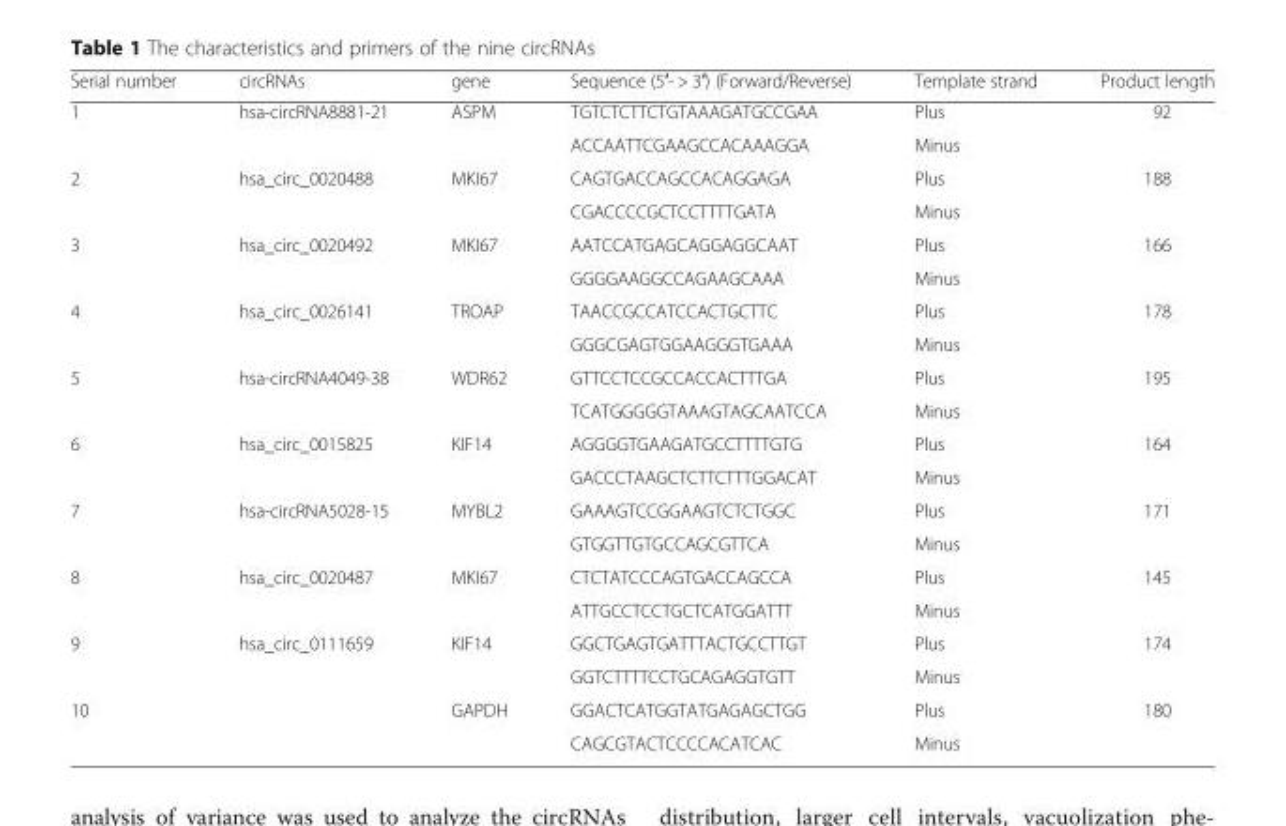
<table><thead><tr><td>Serial number</td><td>circRNAs</td><td>gene</td><td>Sequence (5′- &gt; 3′) (Forward/Reverse)</td><td>Template strand</td><td>Product length</td></tr></thead><tbody><tr><td rowspan="2">1</td><td rowspan="2">hsa-circRNA8881-21</td><td rowspan="2">ASPM</td><td>TGTCTCTTCTGTAAAGATGCCGAA</td><td>Plus</td><td rowspan="2">92</td></tr><tr><td>ACCAATTCGAAGCCACAAAGGA</td><td>Minus</td></tr><tr><td rowspan="2">2</td><td rowspan="2">hsa_circ_0020488</td><td rowspan="2">MKI67</td><td>CAGTGACCAGCCACAGGAGA</td><td>Plus</td><td rowspan="2">188</td></tr><tr><td>CGACCCCGCTCCTTTTGATA</td><td>Minus</td></tr><tr><td rowspan="2">3</td><td rowspan="2">hsa_circ_0020492</td><td rowspan="2">MKI67</td><td>AATCCATGAGCAGGAGGCAAT</td><td>Plus</td><td rowspan="2">166</td></tr><tr><td>GGGGAAGGCCAGAAGCAAA</td><td>Minus</td></tr><tr><td rowspan="2">4</td><td rowspan="2">hsa_circ_0026141</td><td rowspan="2">TROAP</td><td>TAACCGCCATCCACTGCTTC</td><td>Plus</td><td rowspan="2">178</td></tr><tr><td>GGGCGAGTGGAAGGGTGAAA</td><td>Minus</td></tr><tr><td rowspan="2">5</td><td rowspan="2">hsa-circRNA4049-38</td><td rowspan="2">WDR62</td><td>GTTCCTCCGCCACCACTTTGA</td><td>Plus</td><td rowspan="2">195</td></tr><tr><td>TCATGGGGGTAAAGTAGCAATCCA</td><td>Minus</td></tr><tr><td rowspan="2">6</td><td rowspan="2">hsa_circ_0015825</td><td rowspan="2">KIF14</td><td>AGGGGTGAAGATGCCTTTTGTG</td><td>Plus</td><td rowspan="2">164</td></tr><tr><td>GACCCTAAGCTCTTCTTTGGACAT</td><td>Minus</td></tr><tr><td rowspan="2">7</td><td rowspan="2">hsa-circRNA5028-15</td><td rowspan="2">MYBL2</td><td>GAAAGTCCGGAAGTCTCTGGC</td><td>Plus</td><td rowspan="2">171</td></tr><tr><td>GTGGTTGTGCCAGCGTTCA</td><td>Minus</td></tr><tr><td rowspan="2">8</td><td rowspan="2">hsa_circ_0020487</td><td rowspan="2">MKI67</td><td>CTCTATCCCAGTGACCAGCCA</td><td>Plus</td><td rowspan="2">145</td></tr><tr><td>ATTGCCTCCTGCTCATGGATTT</td><td>Minus</td></tr><tr><td rowspan="2">9</td><td rowspan="2">hsa_circ_0111659</td><td rowspan="2">KIF14</td><td>GGCTGAGTGATTTACTGCCTTGT</td><td>Plus</td><td rowspan="2">174</td></tr><tr><td>GGTCTTTTCCTGCAGAGGTGTT</td><td>Minus</td></tr><tr><td rowspan="2">10</td><td rowspan="2"></td><td rowspan="2">GAPDH</td><td>GGACTCATGGTATGAGAGCTGG</td><td>Plus</td><td rowspan="2">180</td></tr><tr><td>CAGCGTACTCCCCACATCAC</td><td>Minus</td></tr></tbody></table>